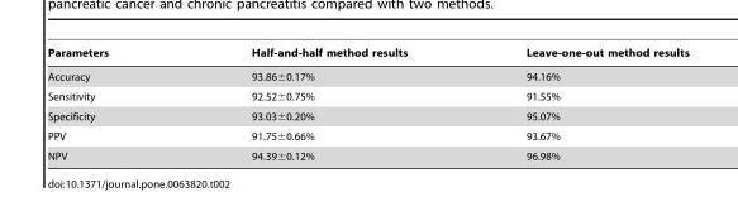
<table><thead><tr><td>Parameters</td><td>Half-and-half method results</td><td>Leave-one-out method results</td></tr></thead><tbody><tr><td>Accuracy</td><td>93.86±0.17%</td><td>94.16%</td></tr><tr><td>Sensitivity</td><td>92.52±0.75%</td><td>91.55%</td></tr><tr><td>Specificity</td><td>93.03±0.20%</td><td>95.07%</td></tr><tr><td>PPV</td><td>91.75±0.66%</td><td>93.67%</td></tr><tr><td>NPV</td><td>94.39±0.12%</td><td>96.98%</td></tr></tbody></table>